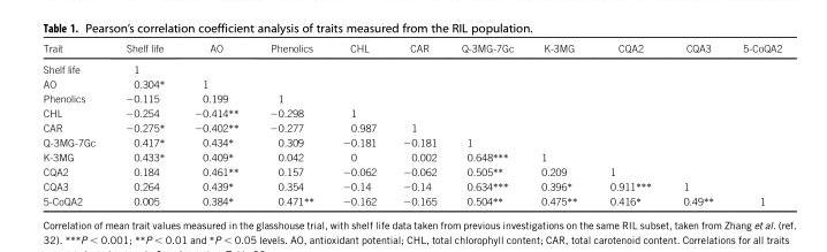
<table><thead><tr><td>Trait</td><td>Shelf life</td><td>AO</td><td>Phenolics</td><td>CHL</td><td>CAR</td><td>Q-3MG-7Gc</td><td>K-3MG</td><td>CQA2</td><td>CQA3</td><td>5-CoQA2</td></tr></thead><tbody><tr><td>Shelf life</td><td>1</td><td></td><td></td><td></td><td></td><td></td><td></td><td></td><td></td><td></td></tr><tr><td>AO</td><td>0.304*</td><td>1</td><td></td><td></td><td></td><td></td><td></td><td></td><td></td><td></td></tr><tr><td>Phenolics</td><td>−0.115</td><td>0.199</td><td>1</td><td></td><td></td><td></td><td></td><td></td><td></td><td></td></tr><tr><td>CHL</td><td>−0.254</td><td>−0.414**</td><td>−0.298</td><td>1</td><td></td><td></td><td></td><td></td><td></td><td></td></tr><tr><td>CAR</td><td>−0.275*</td><td>−0.402**</td><td>−0.277</td><td>0.987</td><td>1</td><td></td><td></td><td></td><td></td><td></td></tr><tr><td>Q-3MG-7Gc</td><td>0.417*</td><td>0.434*</td><td>0.309</td><td>−0.181</td><td>−0.181</td><td>1</td><td></td><td></td><td></td><td></td></tr><tr><td>K-3MG</td><td>0.433*</td><td>0.409*</td><td>0.042</td><td>0</td><td>0.002</td><td>0.648***</td><td>1</td><td></td><td></td><td></td></tr><tr><td>CQA2</td><td>0.184</td><td>0.461**</td><td>0.157</td><td>−0.062</td><td>−0.062</td><td>0.505**</td><td>0.209</td><td>1</td><td></td><td></td></tr><tr><td>CQA3</td><td>0.264</td><td>0.439*</td><td>0.354</td><td>−0.14</td><td>−0.14</td><td>0.634***</td><td>0.396*</td><td>0.911***</td><td>1</td><td></td></tr><tr><td>5-CoQA2</td><td>0.005</td><td>0.384*</td><td>0.471**</td><td>−0.162</td><td>−0.165</td><td>0.504**</td><td>0.475**</td><td>0.416*</td><td>0.49**</td><td>1</td></tr></tbody></table>